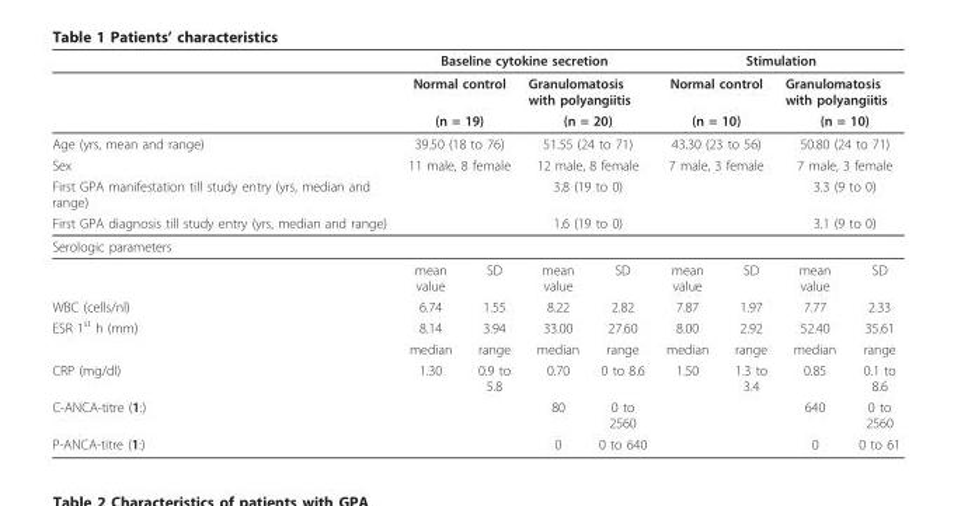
<table><thead><tr><td></td><td colspan="4">Baseline cytokine secretion</td><td colspan="4">Stimulation</td></tr></thead><tbody><tr><td></td><td colspan="2">Normal control</td><td colspan="2">Granulomatosis with polyangiitis</td><td colspan="2">Normal control</td><td colspan="2">Granulomatosis with polyangiitis</td></tr><tr><td></td><td colspan="2">(n = 19)</td><td colspan="2">(n = 20)</td><td colspan="2">(n = 10)</td><td colspan="2">(n = 10)</td></tr><tr><td>Age (yrs, mean and range)</td><td colspan="2">39.50 (18 to 76)</td><td colspan="2">51.55 (24 to 71)</td><td colspan="2">43.30 (23 to 56)</td><td colspan="2">50.80 (24 to 71)</td></tr><tr><td>Sex</td><td colspan="2">11 male, 8 female</td><td colspan="2">12 male, 8 female</td><td colspan="2">7 male, 3 female</td><td colspan="2">7 male, 3 female</td></tr><tr><td>First GPA manifestation till study entry (yrs, median and range)</td><td colspan="2"></td><td colspan="2">3.8 (19 to 0)</td><td colspan="2"></td><td colspan="2">3.3 (9 to 0)</td></tr><tr><td>First GPA diagnosis till study entry (yrs, median and range)</td><td colspan="2"></td><td colspan="2">1.6 (19 to 0)</td><td colspan="2"></td><td colspan="2">3.1 (9 to 0)</td></tr><tr><td colspan="9">Serologic parameters</td></tr><tr><td></td><td>mean value</td><td>SD</td><td>mean value</td><td>SD</td><td>mean value</td><td>SD</td><td>mean value</td><td>SD</td></tr><tr><td>WBC (cells/nl)</td><td>6.74</td><td>1.55</td><td>8.22</td><td>2.82</td><td>7.87</td><td>1.97</td><td>7.77</td><td>2.33</td></tr><tr><td rowspan="2">ESR 1<sup>st</sup> h (mm)</td><td>8.14</td><td>3.94</td><td>33.00</td><td>27.60</td><td>8.00</td><td>2.92</td><td>52.40</td><td>35.61</td></tr><tr><td>median</td><td>range</td><td>median</td><td>range</td><td>median</td><td>range</td><td>median</td><td>range</td></tr><tr><td>CRP (mg/dl)</td><td>1.30</td><td>0.9 to 5.8</td><td>0.70</td><td>0 to 8.6</td><td>1.50</td><td>1.3 to 3.4</td><td>0.85</td><td>0.1 to 8.6</td></tr><tr><td>C-ANCA-titre (1:)</td><td></td><td></td><td>80</td><td>0 to 2560</td><td></td><td></td><td>640</td><td>0 to 2560</td></tr><tr><td>P-ANCA-titre (1:)</td><td></td><td></td><td>0</td><td>0 to 640</td><td></td><td></td><td>0</td><td>0 to 61</td></tr></tbody></table>